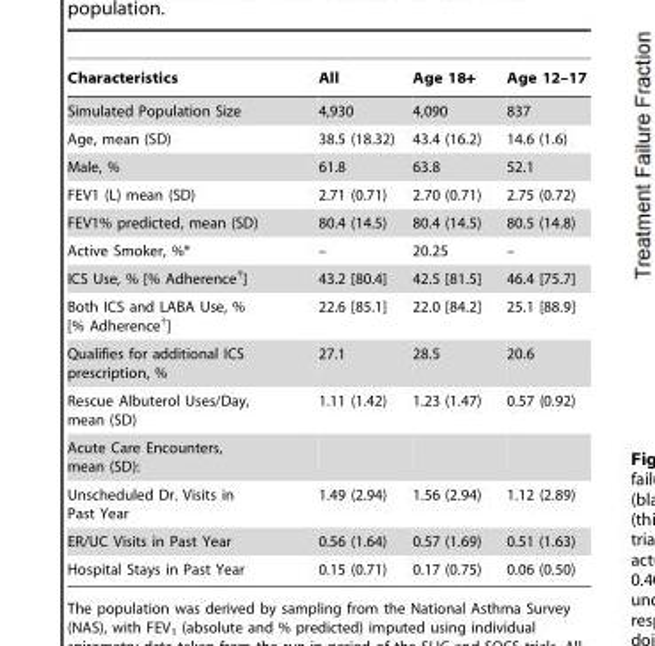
<table><thead><tr><td>Characteristics</td><td>All</td><td>Age 18+</td><td>Age 12–17</td></tr></thead><tbody><tr><td>Simulated Population Size</td><td>4,930</td><td>4,090</td><td>837</td></tr><tr><td>Age, mean (SD)</td><td>38.5 (18.32)</td><td>43.4 (16.2)</td><td>14.6 (1.6)</td></tr><tr><td>Male, %</td><td>61.8</td><td>63.8</td><td>52.1</td></tr><tr><td>FEV1 (L) mean (SD)</td><td>2.71 (0.71)</td><td>2.70 (0.71)</td><td>2.75 (0.72)</td></tr><tr><td>FEV1% predicted, mean (SD)</td><td>80.4 (14.5)</td><td>80.4 (14.5)</td><td>80.5 (14.8)</td></tr><tr><td>Active Smoker, %*</td><td>–</td><td>20.25</td><td>–</td></tr><tr><td>ICS Use, % [% Adherence<sup>†</sup>]</td><td>43.2 [80.4]</td><td>42.5 [81.5]</td><td>46.4 [75.7]</td></tr><tr><td>Both ICS and LABA Use, % [% Adherence<sup>†</sup>]</td><td>22.6 [85.1]</td><td>22.0 [84.2]</td><td>25.1 [88.9]</td></tr><tr><td>Qualifies for additional ICS prescription, %</td><td>27.1</td><td>28.5</td><td>20.6</td></tr><tr><td>Rescue Albuterol Uses/Day, mean (SD)</td><td>1.11 (1.42)</td><td>1.23 (1.47)</td><td>0.57 (0.92)</td></tr><tr><td colspan="4">Acute Care Encounters, mean (SD):</td></tr><tr><td>Unscheduled Dr. Visits in Past Year</td><td>1.49 (2.94)</td><td>1.56 (2.94)</td><td>1.12 (2.89)</td></tr><tr><td>ER/UC Visits in Past Year</td><td>0.56 (1.64)</td><td>0.57 (1.69)</td><td>0.51 (1.63)</td></tr><tr><td>Hospital Stays in Past Year</td><td>0.15 (0.71)</td><td>0.17 (0.75)</td><td>0.06 (0.50)</td></tr></tbody></table>